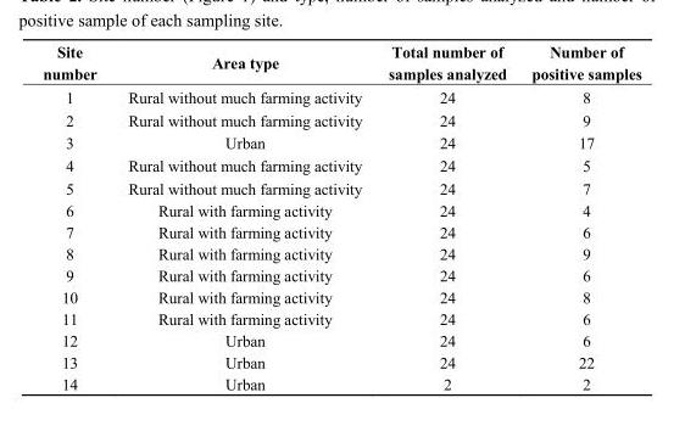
<table><thead><tr><td>Site number</td><td>Area type</td><td>Total number of samples analyzed</td><td>Number of positive samples</td></tr></thead><tbody><tr><td>1</td><td>Rural without much farming activity</td><td>24</td><td>8</td></tr><tr><td>2</td><td>Rural without much farming activity</td><td>24</td><td>9</td></tr><tr><td>3</td><td>Urban</td><td>24</td><td>17</td></tr><tr><td>4</td><td>Rural without much farming activity</td><td>24</td><td>5</td></tr><tr><td>5</td><td>Rural without much farming activity</td><td>24</td><td>7</td></tr><tr><td>6</td><td>Rural with farming activity</td><td>24</td><td>4</td></tr><tr><td>7</td><td>Rural with farming activity</td><td>24</td><td>6</td></tr><tr><td>8</td><td>Rural with farming activity</td><td>24</td><td>9</td></tr><tr><td>9</td><td>Rural with farming activity</td><td>24</td><td>6</td></tr><tr><td>10</td><td>Rural with farming activity</td><td>24</td><td>8</td></tr><tr><td>11</td><td>Rural with farming activity</td><td>24</td><td>6</td></tr><tr><td>12</td><td>Urban</td><td>24</td><td>6</td></tr><tr><td>13</td><td>Urban</td><td>24</td><td>22</td></tr><tr><td>14</td><td>Urban</td><td>2</td><td>2</td></tr></tbody></table>